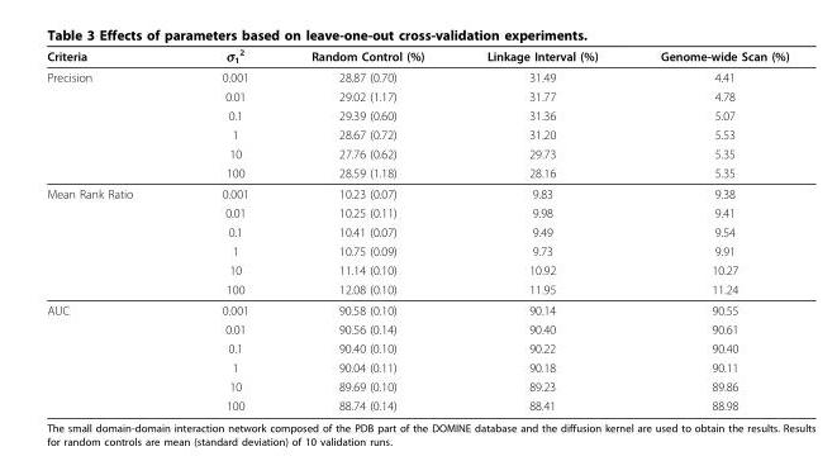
<table><thead><tr><td>Criteria</td><td>σ<sub>1</sub> <sup>2</sup></td><td>Random Control (%)</td><td>Linkage Interval (%)</td><td>Genome-wide Scan (%)</td></tr></thead><tbody><tr><td rowspan="6">Precision</td><td>0.001</td><td>28.87 (0.70)</td><td>31.49</td><td>4.41</td></tr><tr><td>0.01</td><td>29.02 (1.17)</td><td>31.77</td><td>4.78</td></tr><tr><td>0.1</td><td>29.39 (0.60)</td><td>31.36</td><td>5.07</td></tr><tr><td>1</td><td>28.67 (0.72)</td><td>31.20</td><td>5.53</td></tr><tr><td>10</td><td>27.76 (0.62)</td><td>29.73</td><td>5.35</td></tr><tr><td>100</td><td>28.59 (1.18)</td><td>28.16</td><td>5.35</td></tr><tr><td rowspan="6">Mean Rank Ratio</td><td>0.001</td><td>10.23 (0.07)</td><td>9.83</td><td>9.38</td></tr><tr><td>0.01</td><td>10.25 (0.11)</td><td>9.98</td><td>9.41</td></tr><tr><td>0.1</td><td>10.41 (0.07)</td><td>9.49</td><td>9.54</td></tr><tr><td>1</td><td>10.75 (0.09)</td><td>9.73</td><td>9.91</td></tr><tr><td>10</td><td>11.14 (0.10)</td><td>10.92</td><td>10.27</td></tr><tr><td>100</td><td>12.08 (0.10)</td><td>11.95</td><td>11.24</td></tr><tr><td rowspan="6">AUC</td><td>0.001</td><td>90.58 (0.10)</td><td>90.14</td><td>90.55</td></tr><tr><td>0.01</td><td>90.56 (0.14)</td><td>90.40</td><td>90.61</td></tr><tr><td>0.1</td><td>90.40 (0.10)</td><td>90.22</td><td>90.40</td></tr><tr><td>1</td><td>90.04 (0.11)</td><td>90.18</td><td>90.11</td></tr><tr><td>10</td><td>89.69 (0.10)</td><td>89.23</td><td>89.86</td></tr><tr><td>100</td><td>88.74 (0.14)</td><td>88.41</td><td>88.98</td></tr></tbody></table>